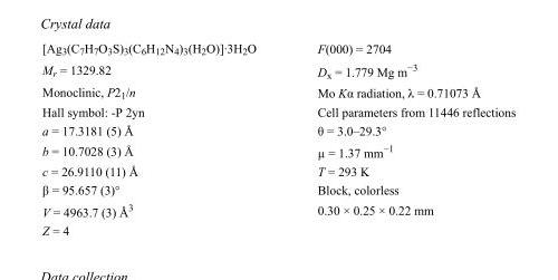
<table><tbody><tr><td>[Ag<sub>3</sub>(C<sub>7</sub>H<sub>7</sub>O<sub>3</sub>S)<sub>3</sub>(C<sub>6</sub>H<sub>12</sub>N<sub>4</sub>)<sub>3</sub>(H<sub>2</sub>O)]·3H<sub>2</sub>O</td><td>F(000) = 2704</td></tr><tr><td>M<sub>r</sub> = 1329.82</td><td>D<sub>x</sub> = 1.779 Mg m<sup>−3</sup></td></tr><tr><td>Monoclinic, P2<sub>1</sub>/n</td><td>Mo Kα radiation, λ = 0.71073 Å</td></tr><tr><td>Hall symbol: -P 2yn</td><td>Cell parameters from 11446 reflections</td></tr><tr><td>a = 17.3181 (5) Å</td><td>θ = 3.0–29.3°</td></tr><tr><td>b = 10.7028 (3) Å</td><td>µ = 1.37 mm<sup>−1</sup></td></tr><tr><td>c = 26.9110 (11) Å</td><td>T = 293 K</td></tr><tr><td>β = 95.657 (3)°</td><td>Block, colorless</td></tr><tr><td>V = 4963.7 (3) Å<sup>3</sup></td><td>0.30 × 0.25 × 0.22 mm</td></tr><tr><td>Z = 4</td><td></td></tr></tbody></table>